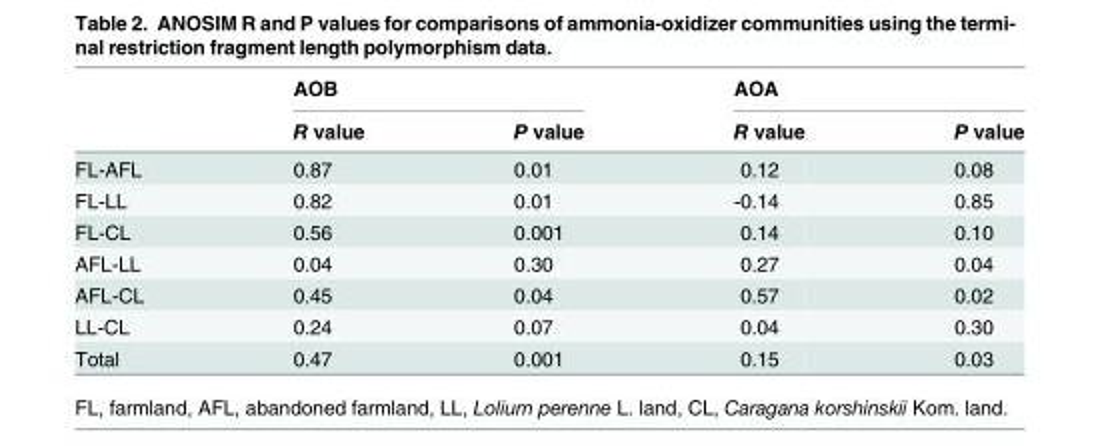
<table><thead><tr><td rowspan="2"></td><td colspan="2">AOB</td><td colspan="2">AOA</td></tr><tr><td>R value</td><td>P value</td><td>R value</td><td>P value</td></tr></thead><tbody><tr><td>FL-AFL</td><td>0.87</td><td>0.01</td><td>0.12</td><td>0.08</td></tr><tr><td>FL-LL</td><td>0.82</td><td>0.01</td><td>-0.14</td><td>0.85</td></tr><tr><td>FL-CL</td><td>0.56</td><td>0.001</td><td>0.14</td><td>0.10</td></tr><tr><td>AFL-LL</td><td>0.04</td><td>0.30</td><td>0.27</td><td>0.04</td></tr><tr><td>AFL-CL</td><td>0.45</td><td>0.04</td><td>0.57</td><td>0.02</td></tr><tr><td>LL-CL</td><td>0.24</td><td>0.07</td><td>0.04</td><td>0.30</td></tr><tr><td>Total</td><td>0.47</td><td>0.001</td><td>0.15</td><td>0.03</td></tr></tbody></table>